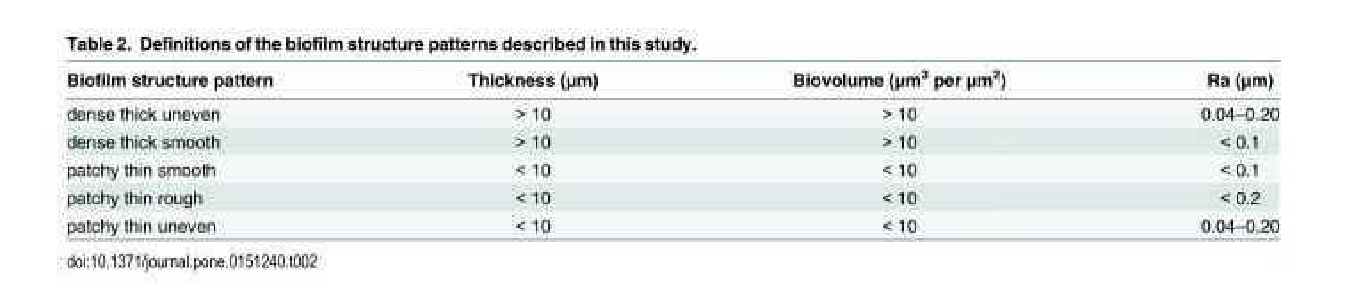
<table><thead><tr><td>Biofilm structure pattern</td><td>Thickness (μm)</td><td>Biovolume (μm<sup>3</sup> per μm<sup>2</sup>)</td><td>Ra (μm)</td></tr></thead><tbody><tr><td>dense thick uneven</td><td>&gt; 10</td><td>&gt; 10</td><td>0.04–0.20</td></tr><tr><td>dense thick smooth</td><td>&gt; 10</td><td>&gt; 10</td><td>&lt; 0.1</td></tr><tr><td>patchy thin smooth</td><td>&lt; 10</td><td>&lt; 10</td><td>&lt; 0.1</td></tr><tr><td>patchy thin rough</td><td>&lt; 10</td><td>&lt; 10</td><td>&lt; 0.2</td></tr><tr><td>patchy thin uneven</td><td>&lt; 10</td><td>&lt; 10</td><td>0.04–0.20</td></tr></tbody></table>